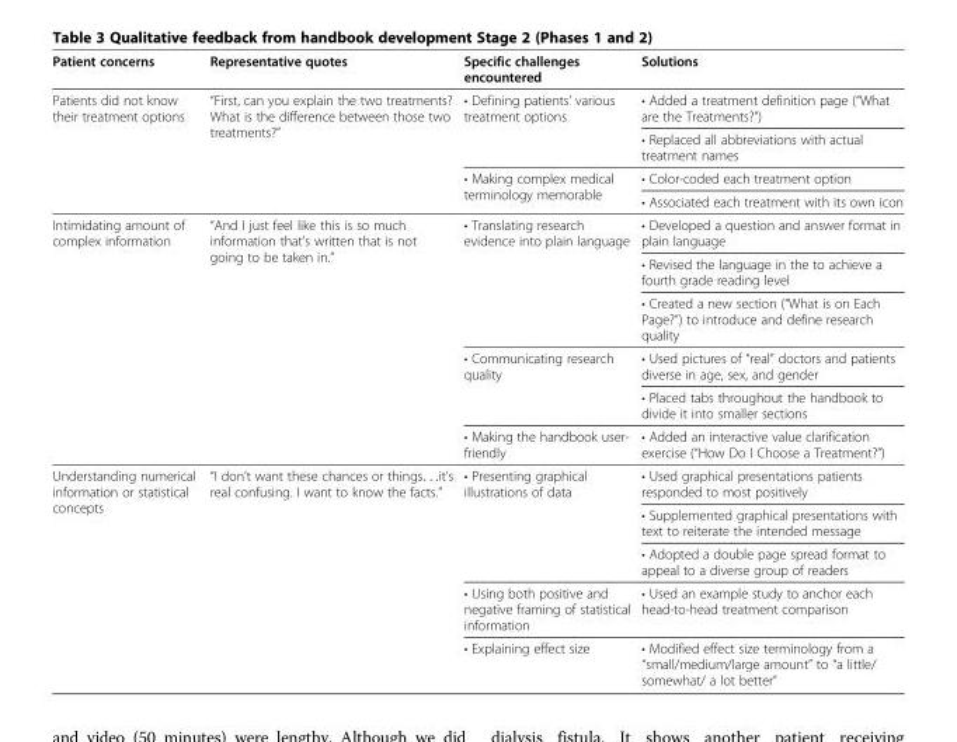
<table><thead><tr><td>Patient concerns</td><td>Representative quotes</td><td>Specific challenges encountered</td><td>Solutions</td></tr></thead><tbody><tr><td rowspan="4">Patients did not know their treatment options</td><td rowspan="4">“First, can you explain the two treatments? What is the difference between those two treatments?”</td><td rowspan="2">• Defining patients’ various treatment options</td><td>• Added a treatment definition page (“What are the Treatments?”)</td></tr><tr><td>• Replaced all abbreviations with actual treatment names</td></tr><tr><td rowspan="2">• Making complex medical terminology memorable</td><td>• Color-coded each treatment option</td></tr><tr><td>• Associated each treatment with its own icon</td></tr><tr><td rowspan="6">Intimidating amount of complex information</td><td rowspan="6">“And I just feel like this is so much information that&#x27;s written that is not going to be taken in.”</td><td rowspan="3">• Translating research evidence into plain language</td><td>• Developed a question and answer format in plain language</td></tr><tr><td>• Revised the language in the to achieve a fourth grade reading level</td></tr><tr><td>• Created a new section (“What is on Each Page?”) to introduce and define research quality</td></tr><tr><td rowspan="2">• Communicating research quality</td><td>• Used pictures of “real” doctors and patients diverse in age, sex, and gender</td></tr><tr><td>• Placed tabs throughout the handbook to divide it into smaller sections</td></tr><tr><td>• Making the handbook user- friendly</td><td>• Added an interactive value clarification exercise (“How Do I Choose a Treatment?”)</td></tr><tr><td rowspan="5">Understanding numerical information or statistical concepts</td><td rowspan="5">“I don’t want these chances or things. . .it’s real confusing. I want to know the facts.”</td><td rowspan="3">• Presenting graphical illustrations of data</td><td>• Used graphical presentations patients responded to most positively</td></tr><tr><td>• Supplemented graphical presentations with text to reiterate the intended message</td></tr><tr><td>• Adopted a double page spread format to appeal to a diverse group of readers</td></tr><tr><td>• Using both positive and negative framing of statistical information</td><td>• Used an example study to anchor each head-to-head treatment comparison</td></tr><tr><td>• Explaining effect size</td><td>• Modified effect size terminology from a “small/medium/large amount” to “a little/ somewhat/ a lot better”</td></tr></tbody></table>